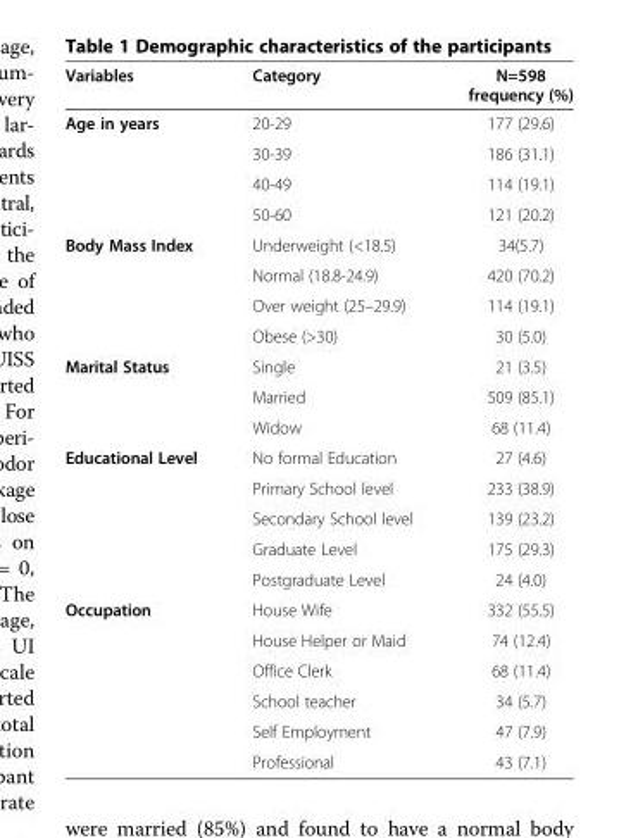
<table><thead><tr><td>Variables</td><td>Category</td><td>N=598 frequency (%)</td></tr></thead><tbody><tr><td rowspan="4">Age in years</td><td>20-29</td><td>177 (29.6)</td></tr><tr><td>30-39</td><td>186 (31.1)</td></tr><tr><td>40-49</td><td>114 (19.1)</td></tr><tr><td>50-60</td><td>121 (20.2)</td></tr><tr><td rowspan="4">Body Mass Index</td><td>Underweight (&lt;18.5)</td><td>34(5.7)</td></tr><tr><td>Normal (18.8-24.9)</td><td>420 (70.2)</td></tr><tr><td>Over weight (25–29.9)</td><td>114 (19.1)</td></tr><tr><td>Obese (&gt;30)</td><td>30 (5.0)</td></tr><tr><td rowspan="3">Marital Status</td><td>Single</td><td>21 (3.5)</td></tr><tr><td>Married</td><td>509 (85.1)</td></tr><tr><td>Widow</td><td>68 (11.4)</td></tr><tr><td rowspan="5">Educational Level</td><td>No formal Education</td><td>27 (4.6)</td></tr><tr><td>Primary School level</td><td>233 (38.9)</td></tr><tr><td>Secondary School level</td><td>139 (23.2)</td></tr><tr><td>Graduate Level</td><td>175 (29.3)</td></tr><tr><td>Postgraduate Level</td><td>24 (4.0)</td></tr><tr><td rowspan="6">Occupation</td><td>House Wife</td><td>332 (55.5)</td></tr><tr><td>House Helper or Maid</td><td>74 (12.4)</td></tr><tr><td>Office Clerk</td><td>68 (11.4)</td></tr><tr><td>School teacher</td><td>34 (5.7)</td></tr><tr><td>Self Employment</td><td>47 (7.9)</td></tr><tr><td>Professional</td><td>43 (7.1)</td></tr></tbody></table>